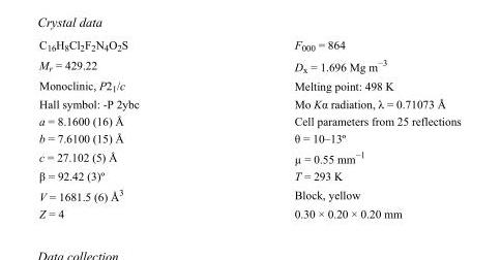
<table><tbody><tr><td>C<sub>16</sub>H<sub>8</sub>Cl<sub>2</sub>F<sub>2</sub>N<sub>4</sub>O<sub>2</sub>S</td><td>F000 = 864</td></tr><tr><td>M<sub>r</sub> = 429.22</td><td>D<sub>x</sub> = 1.696 Mg m<sup>−3</sup></td></tr><tr><td>Monoclinic, P2<sub>1</sub>/c</td><td>Melting point: 498 K</td></tr><tr><td>Hall symbol: -P 2ybc</td><td>Mo Kα radiation, λ = 0.71073 Å</td></tr><tr><td>a = 8.1600 (16) Å</td><td>Cell parameters from 25 reflections</td></tr><tr><td>b = 7.6100 (15) Å</td><td>θ = 10–13º</td></tr><tr><td>c = 27.102 (5) Å</td><td>µ = 0.55 mm<sup>−1</sup></td></tr><tr><td>β = 92.42 (3)º</td><td>T = 293 K</td></tr><tr><td>V = 1681.5 (6) Å<sup>3</sup></td><td>Block, yellow</td></tr><tr><td>Z = 4</td><td>0.30 × 0.20 × 0.20 mm</td></tr></tbody></table>